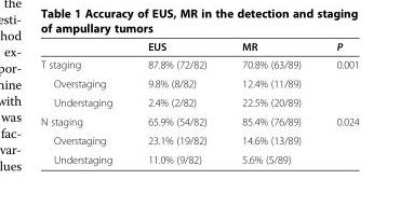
<table><thead><tr><td></td><td>EUS</td><td>MR</td><td>P</td></tr></thead><tbody><tr><td>T staging</td><td>87.8% (72/82)</td><td>70.8% (63/89)</td><td>0.001</td></tr><tr><td>Overstaging</td><td>9.8% (8/82)</td><td>12.4% (11/89)</td><td></td></tr><tr><td>Understaging</td><td>2.4% (2/82)</td><td>22.5% (20/89)</td><td></td></tr><tr><td>N staging</td><td>65.9% (54/82)</td><td>85.4% (76/89)</td><td>0.024</td></tr><tr><td>Overstaging</td><td>23.1% (19/82)</td><td>14.6% (13/89)</td><td></td></tr><tr><td>Understaging</td><td>11.0% (9/82)</td><td>5.6% (5/89)</td><td></td></tr></tbody></table>